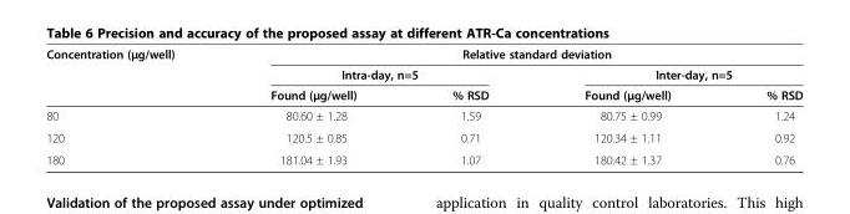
<table><thead><tr><td rowspan="3">Concentration (μg/well)</td><td colspan="4">Relative standard deviation</td></tr><tr><td colspan="2">Intra-day, n=5</td><td colspan="2">Inter-day, n=5</td></tr><tr><td>Found (μg/well)</td><td>% RSD</td><td>Found (μg/well)</td><td>% RSD</td></tr></thead><tbody><tr><td>80</td><td>80.60 ± 1.28</td><td>1.59</td><td>80.75 ± 0.99</td><td>1.24</td></tr><tr><td>120</td><td>120.5 ± 0.85</td><td>0.71</td><td>120.34 ± 1.11</td><td>0.92</td></tr><tr><td>180</td><td>181.04 ± 1.93</td><td>1.07</td><td>180.42 ± 1.37</td><td>0.76</td></tr></tbody></table>